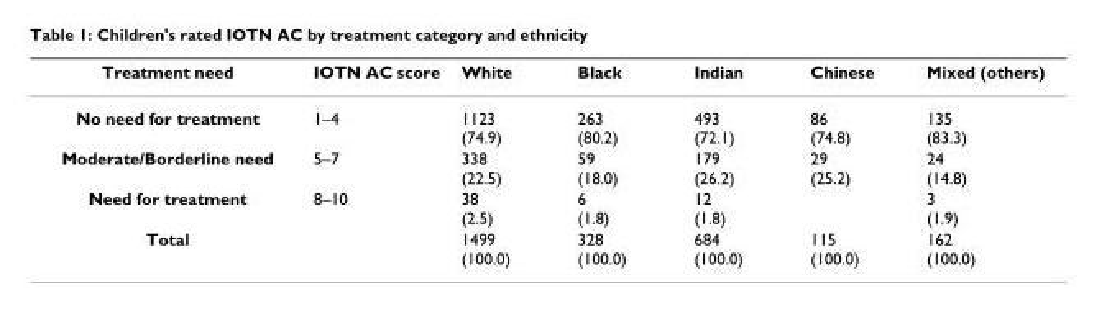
<table><thead><tr><td>Treatment need</td><td>IOTN AC score</td><td>White</td><td>Black</td><td>Indian</td><td>Chinese</td><td>Mixed (others)</td></tr></thead><tbody><tr><td>No need for treatment</td><td>1–4</td><td>1123 (74.9)</td><td>263 (80.2)</td><td>493 (72.1)</td><td>86 (74.8)</td><td>135 (83.3)</td></tr><tr><td>Moderate/Borderline need</td><td>5–7</td><td>338 (22.5)</td><td>59 (18.0)</td><td>179 (26.2)</td><td>29 (25.2)</td><td>24 (14.8)</td></tr><tr><td>Need for treatment</td><td>8–10</td><td>38 (2.5)</td><td>6 (1.8)</td><td>12 (1.8)</td><td></td><td>3 (1.9)</td></tr><tr><td>Total</td><td></td><td>1499 (100.0)</td><td>328 (100.0)</td><td>684 (100.0)</td><td>115 (100.0)</td><td>162 (100.0)</td></tr></tbody></table>